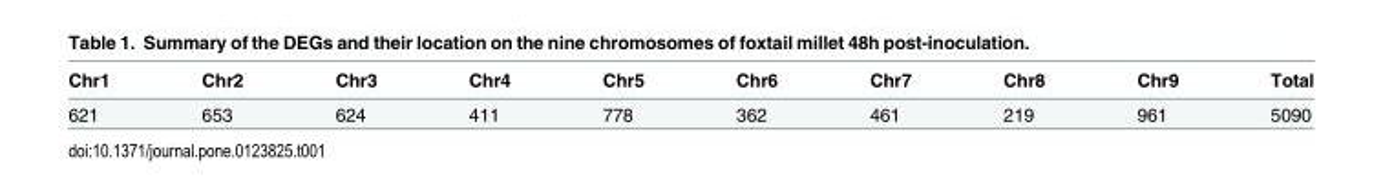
<table><thead><tr><td>Chr1</td><td>Chr2</td><td>Chr3</td><td>Chr4</td><td>Chr5</td><td>Chr6</td><td>Chr7</td><td>Chr8</td><td>Chr9</td><td>Total</td></tr></thead><tbody><tr><td>621</td><td>653</td><td>624</td><td>411</td><td>778</td><td>362</td><td>461</td><td>219</td><td>961</td><td>5090</td></tr></tbody></table>